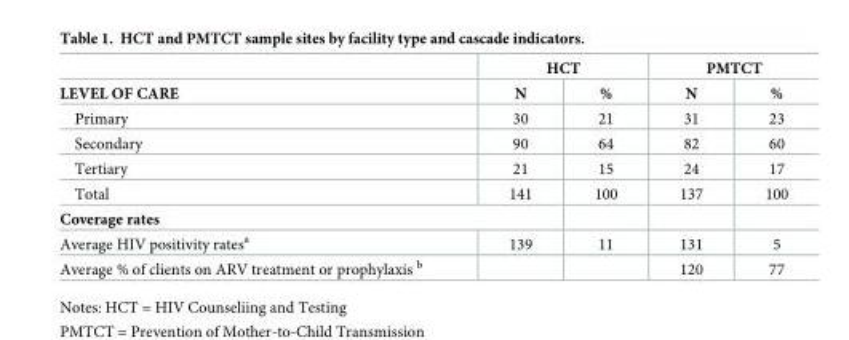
<table><thead><tr><td rowspan="2">LEVEL OF CARE</td><td colspan="2">HCT</td><td colspan="2">PMTCT</td></tr><tr><td>N</td><td>%</td><td>N</td><td>%</td></tr></thead><tbody><tr><td>Primary</td><td>30</td><td>21</td><td>31</td><td>23</td></tr><tr><td>Secondary</td><td>90</td><td>64</td><td>82</td><td>60</td></tr><tr><td>Tertiary</td><td>21</td><td>15</td><td>24</td><td>17</td></tr><tr><td>Total</td><td>141</td><td>100</td><td>137</td><td>100</td></tr><tr><td colspan="5">Coverage rates</td></tr><tr><td>Average HIV positivity rates<sup>a</sup></td><td>139</td><td>11</td><td>131</td><td>5</td></tr><tr><td>Average % of clients on ARV treatment or prophylaxis <sup>b</sup></td><td></td><td></td><td>120</td><td>77</td></tr></tbody></table>